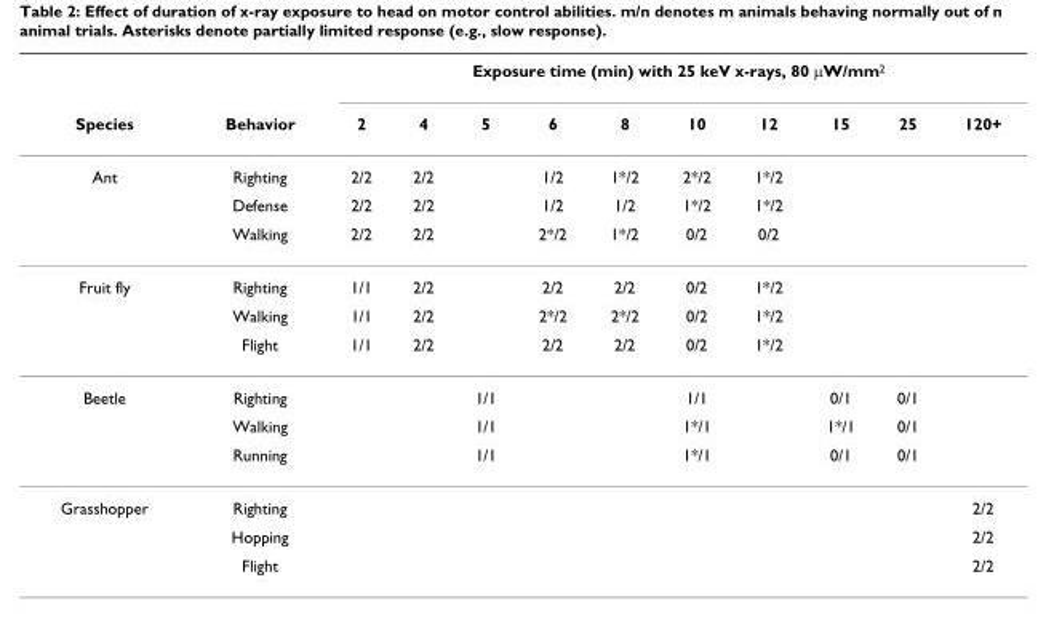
<table><thead><tr><td rowspan="2">Species</td><td rowspan="2">Behavior</td><td colspan="10">Exposure time (min) with 25 keV x-rays, 80 μW/mm<sup>2</sup></td></tr><tr><td>2</td><td>4</td><td>5</td><td>6</td><td>8</td><td>10</td><td>12</td><td>15</td><td>25</td><td>120+</td></tr></thead><tbody><tr><td rowspan="3">Ant</td><td>Righting</td><td>2/2</td><td>2/2</td><td></td><td>1/2</td><td>1*/2</td><td>2*/2</td><td>1*/2</td><td></td><td></td><td></td></tr><tr><td>Defense</td><td>2/2</td><td>2/2</td><td></td><td>1/2</td><td>1/2</td><td>1*/2</td><td>1*/2</td><td></td><td></td><td></td></tr><tr><td>Walking</td><td>2/2</td><td>2/2</td><td></td><td>2*/2</td><td>1*/2</td><td>0/2</td><td>0/2</td><td></td><td></td><td></td></tr><tr><td rowspan="3">Fruit fly</td><td>Righting</td><td>1/1</td><td>2/2</td><td></td><td>2/2</td><td>2/2</td><td>0/2</td><td>1*/2</td><td></td><td></td><td></td></tr><tr><td>Walking</td><td>1/1</td><td>2/2</td><td></td><td>2*/2</td><td>2*/2</td><td>0/2</td><td>1*/2</td><td></td><td></td><td></td></tr><tr><td>Flight</td><td>1/1</td><td>2/2</td><td></td><td>2/2</td><td>2/2</td><td>0/2</td><td>1*/2</td><td></td><td></td><td></td></tr><tr><td rowspan="3">Beetle</td><td>Righting</td><td></td><td></td><td>1/1</td><td></td><td></td><td>1/1</td><td></td><td>0/1</td><td>0/1</td><td></td></tr><tr><td>Walking</td><td></td><td></td><td>1/1</td><td></td><td></td><td>1*/1</td><td></td><td>1*/1</td><td>0/1</td><td></td></tr><tr><td>Running</td><td></td><td></td><td>1/1</td><td></td><td></td><td>1*/1</td><td></td><td>0/1</td><td>0/1</td><td></td></tr><tr><td rowspan="3">Grasshopper</td><td>Righting</td><td></td><td></td><td></td><td></td><td></td><td></td><td></td><td></td><td></td><td>2/2</td></tr><tr><td>Hopping</td><td></td><td></td><td></td><td></td><td></td><td></td><td></td><td></td><td></td><td>2/2</td></tr><tr><td>Flight</td><td></td><td></td><td></td><td></td><td></td><td></td><td></td><td></td><td></td><td>2/2</td></tr></tbody></table>